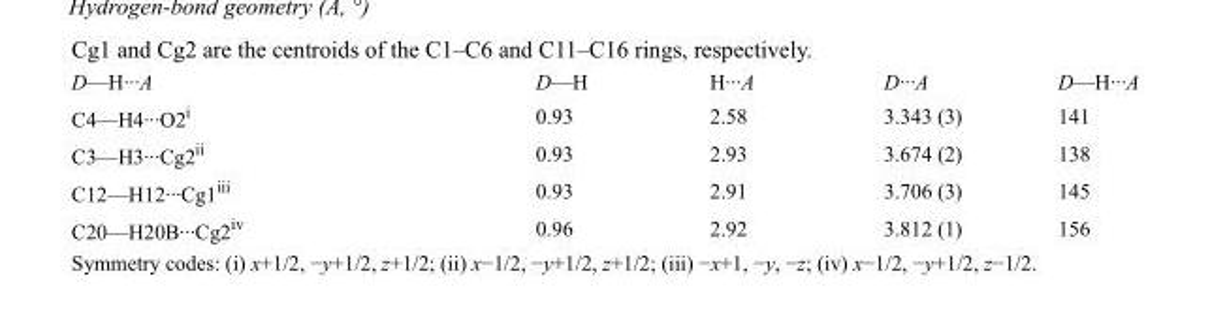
<table><tbody><tr><td>D—H···A</td><td>D—H</td><td>H···A</td><td>D···A</td><td>D—H···A</td></tr><tr><td>C4—H4···O2<sup>i</sup></td><td>0.93</td><td>2.58</td><td>3.343 (3)</td><td>141</td></tr><tr><td>C3—H3···Cg2<sup>ii</sup></td><td>0.93</td><td>2.93</td><td>3.674 (2)</td><td>138</td></tr><tr><td>C12—H12···Cg1<sup>iii</sup></td><td>0.93</td><td>2.91</td><td>3.706 (3)</td><td>145</td></tr><tr><td>C20—H20B···Cg2<sup>iv</sup></td><td>0.96</td><td>2.92</td><td>3.812 (1)</td><td>156</td></tr></tbody></table>